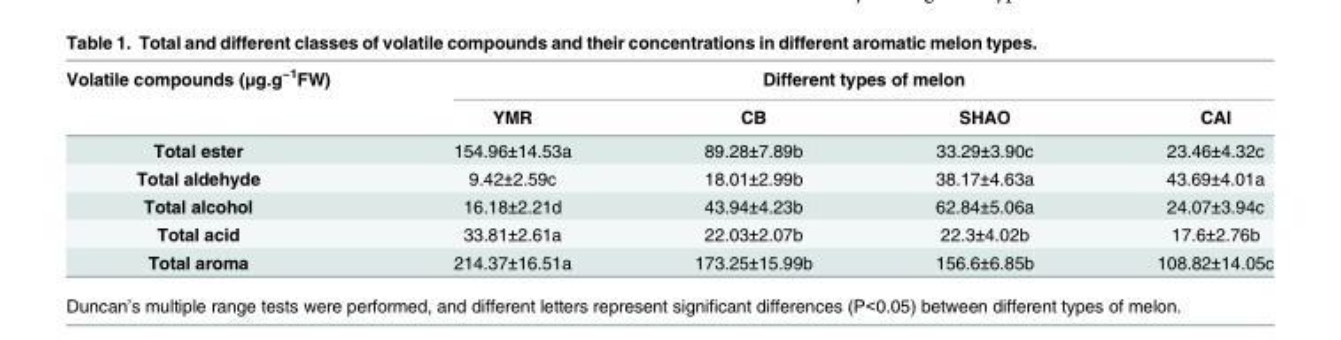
<table><thead><tr><td rowspan="2">Volatile compounds (μg.g<sup>−1</sup>FW)</td><td colspan="4">Different types of melon</td></tr><tr><td>YMR</td><td>CB</td><td>SHAO</td><td>CAI</td></tr></thead><tbody><tr><td>Total ester</td><td>154.96±14.53a</td><td>89.28±7.89b</td><td>33.29±3.90c</td><td>23.46±4.32c</td></tr><tr><td>Total aldehyde</td><td>9.42±2.59c</td><td>18.01±2.99b</td><td>38.17±4.63a</td><td>43.69±4.01a</td></tr><tr><td>Total alcohol</td><td>16.18±2.21d</td><td>43.94±4.23b</td><td>62.84±5.06a</td><td>24.07±3.94c</td></tr><tr><td>Total acid</td><td>33.81±2.61a</td><td>22.03±2.07b</td><td>22.3±4.02b</td><td>17.6±2.76b</td></tr><tr><td>Total aroma</td><td>214.37±16.51a</td><td>173.25±15.99b</td><td>156.6±6.85b</td><td>108.82±14.05c</td></tr></tbody></table>